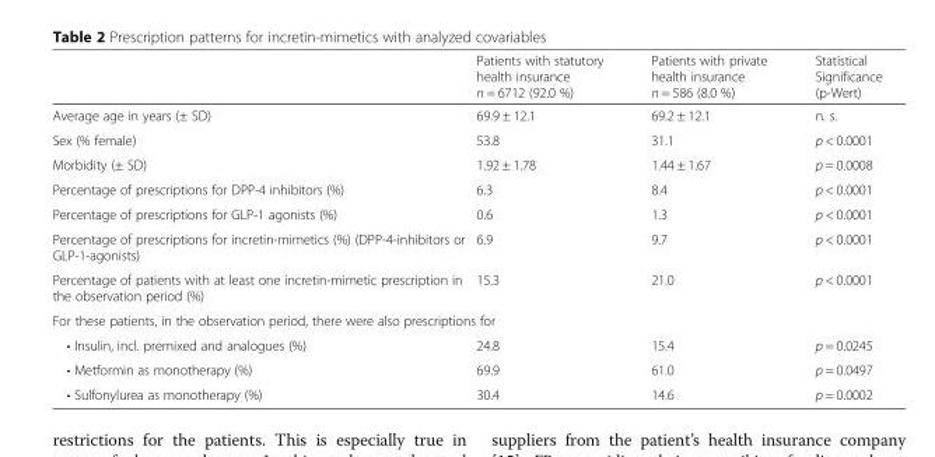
<table><thead><tr><td></td><td>Patients with statutory health insurance n = 6712 (92.0 %)</td><td>Patients with private health insurance n = 586 (8.0 %)</td><td>Statistical Significance (p-Wert)</td></tr></thead><tbody><tr><td>Average age in years (± SD)</td><td>69.9 ± 12.1</td><td>69.2 ± 12.1</td><td>n. s.</td></tr><tr><td>Sex (% female)</td><td>53.8</td><td>31.1</td><td>p &lt; 0.0001</td></tr><tr><td>Morbidity (± SD)</td><td>1.92 ± 1.78</td><td>1.44 ± 1.67</td><td>p = 0.0008</td></tr><tr><td>Percentage of prescriptions for DPP-4 inhibitors (%)</td><td>6.3</td><td>8.4</td><td>p &lt; 0.0001</td></tr><tr><td>Percentage of prescriptions for GLP-1 agonists (%)</td><td>0.6</td><td>1.3</td><td>p &lt; 0.0001</td></tr><tr><td>Percentage of prescriptions for incretin-mimetics (%) (DPP-4-inhibitors or GLP-1-agonists)</td><td>6.9</td><td>9.7</td><td>p &lt; 0.0001</td></tr><tr><td>Percentage of patients with at least one incretin-mimetic prescription in the observation period (%)</td><td>15.3</td><td>21.0</td><td>p &lt; 0.0001</td></tr><tr><td colspan="4">For these patients, in the observation period, there were also prescriptions for</td></tr><tr><td>• Insulin, incl. premixed and analogues (%)</td><td>24.8</td><td>15.4</td><td>p = 0.0245</td></tr><tr><td>• Metformin as monotherapy (%)</td><td>69.9</td><td>61.0</td><td>p = 0.0497</td></tr><tr><td>• Sulfonylurea as monotherapy (%)</td><td>30.4</td><td>14.6</td><td>p = 0.0002</td></tr></tbody></table>